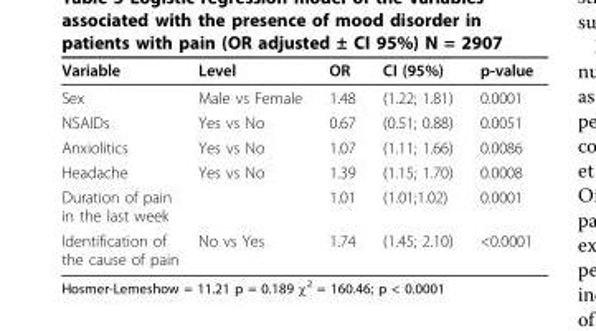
<table><thead><tr><td>Variable</td><td>Level</td><td>OR</td><td>CI (95%)</td><td>p-value</td></tr></thead><tbody><tr><td>Sex</td><td>Male vs Female</td><td>1.48</td><td>(1.22; 1.81)</td><td>0.0001</td></tr><tr><td>NSAIDs</td><td>Yes vs No</td><td>0.67</td><td>(0.51; 0.88)</td><td>0.0051</td></tr><tr><td>Anxiolitics</td><td>Yes vs No</td><td>1.07</td><td>(1.11; 1.66)</td><td>0.0086</td></tr><tr><td>Headache</td><td>Yes vs No</td><td>1.39</td><td>(1.15; 1.70)</td><td>0.0008</td></tr><tr><td>Duration of pain in the last week</td><td></td><td>1.01</td><td>(1.01;1.02)</td><td>0.0001</td></tr><tr><td>Identification of the cause of pain</td><td>No vs Yes</td><td>1.74</td><td>(1.45; 2.10)</td><td>&lt;0.0001</td></tr></tbody></table>